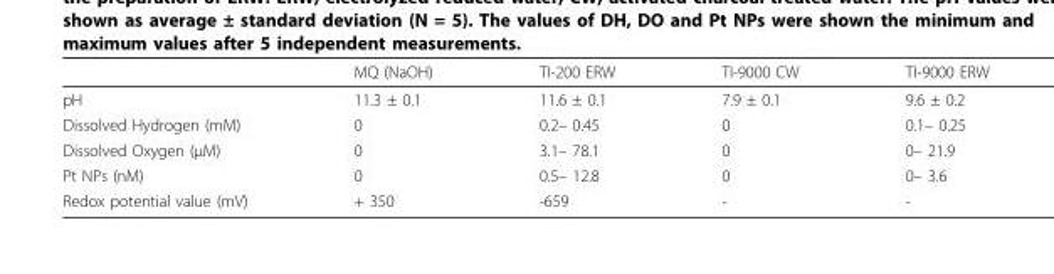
<table><thead><tr><td></td><td>MQ (NaOH)</td><td>TI-200 ERW</td><td>TI-9000 CW</td><td>TI-9000 ERW</td></tr></thead><tbody><tr><td>pH</td><td>11.3 ± 0.1</td><td>11.6 ± 0.1</td><td>7.9 ± 0.1</td><td>9.6 ± 0.2</td></tr><tr><td>Dissolved Hydrogen (mM)</td><td>0</td><td>0.2– 0.45</td><td>0</td><td>0.1– 0.25</td></tr><tr><td>Dissolved Oxygen (μM)</td><td>0</td><td>3.1– 78.1</td><td>0</td><td>0– 21.9</td></tr><tr><td>Pt NPs (nM)</td><td>0</td><td>0.5– 12.8</td><td>0</td><td>0– 3.6</td></tr><tr><td>Redox potential value (mV)</td><td>+ 350</td><td>-659</td><td>-</td><td>-</td></tr></tbody></table>